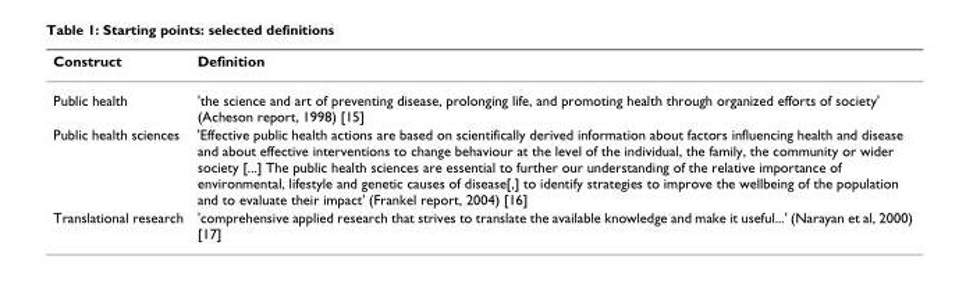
<table><thead><tr><td>Construct</td><td>Definition</td></tr></thead><tbody><tr><td>Public health</td><td>&#x27;the science and art of preventing disease, prolonging life, and promoting health through organized efforts of society&#x27; (Acheson report, 1998) [15]</td></tr><tr><td>Public health sciences</td><td>&#x27;Effective public health actions are based on scientifically derived information about factors influencing health and disease and about effective interventions to change behaviour at the level of the individual, the family, the community or wider society [...] The public health sciences are essential to further our understanding of the relative importance of environmental, lifestyle and genetic causes of disease[,] to identify strategies to improve the wellbeing of the population and to evaluate their impact&#x27; (Frankel report, 2004) [16]</td></tr><tr><td>Translational research</td><td>&#x27;comprehensive applied research that strives to translate the available knowledge and make it useful...&#x27; (Narayan et al, 2000) [17]</td></tr></tbody></table>